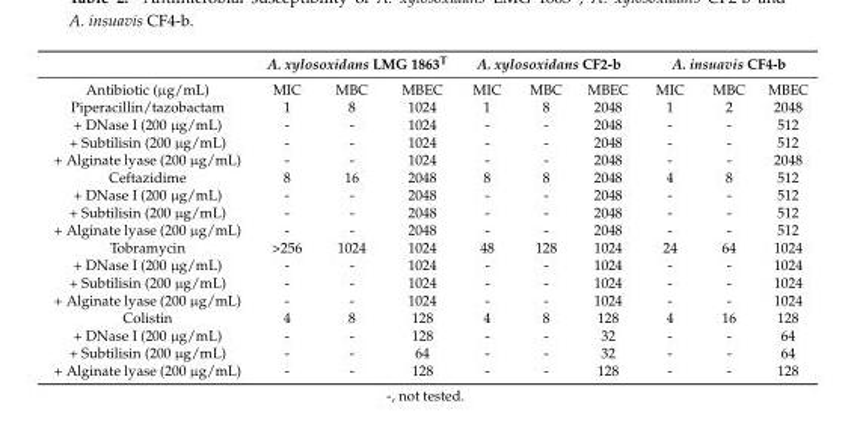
<table><thead><tr><td rowspan="2">Antibiotic (µg/mL)</td><td colspan="3">A. xylosoxidans LMG 1863<sup>T</sup></td><td colspan="3">A. xylosoxidans CF2-b</td><td colspan="3">A. insuavis CF4-b</td></tr><tr><td>MIC</td><td>MBC</td><td>MBEC</td><td>MIC</td><td>MBC</td><td>MBEC</td><td>MIC</td><td>MBC</td><td>MBEC</td></tr></thead><tbody><tr><td>Piperacillin/tazobactam</td><td>1</td><td>8</td><td>1024</td><td>1</td><td>8</td><td>2048</td><td>1</td><td>2</td><td>2048</td></tr><tr><td>+ DNase I (200 µg/mL)</td><td>-</td><td>-</td><td>1024</td><td>-</td><td>-</td><td>2048</td><td>-</td><td>-</td><td>512</td></tr><tr><td>+ Subtilisin (200 µg/mL)</td><td>-</td><td>-</td><td>1024</td><td>-</td><td>-</td><td>2048</td><td>-</td><td>-</td><td>512</td></tr><tr><td>+ Alginate lyase (200 µg/mL)</td><td>-</td><td>-</td><td>1024</td><td>-</td><td>-</td><td>2048</td><td>-</td><td>-</td><td>2048</td></tr><tr><td>Ceftazidime</td><td>8</td><td>16</td><td>2048</td><td>8</td><td>8</td><td>2048</td><td>4</td><td>8</td><td>512</td></tr><tr><td>+ DNase I (200 µg/mL)</td><td>-</td><td>-</td><td>2048</td><td>-</td><td>-</td><td>2048</td><td>-</td><td>-</td><td>512</td></tr><tr><td>+ Subtilisin (200 µg/mL)</td><td>-</td><td>-</td><td>2048</td><td>-</td><td>-</td><td>2048</td><td>-</td><td>-</td><td>512</td></tr><tr><td>+ Alginate lyase (200 µg/mL)</td><td>-</td><td>-</td><td>2048</td><td>-</td><td>-</td><td>2048</td><td>-</td><td>-</td><td>512</td></tr><tr><td>Tobramycin</td><td>&gt;256</td><td>1024</td><td>1024</td><td>48</td><td>128</td><td>1024</td><td>24</td><td>64</td><td>1024</td></tr><tr><td>+ DNase I (200 µg/mL)</td><td>-</td><td>-</td><td>1024</td><td>-</td><td>-</td><td>1024</td><td>-</td><td>-</td><td>1024</td></tr><tr><td>+ Subtilisin (200 µg/mL)</td><td>-</td><td>-</td><td>1024</td><td>-</td><td>-</td><td>1024</td><td>-</td><td>-</td><td>1024</td></tr><tr><td>+ Alginate lyase (200 µg/mL)</td><td>-</td><td>-</td><td>1024</td><td>-</td><td>-</td><td>1024</td><td>-</td><td>-</td><td>1024</td></tr><tr><td>Colistin</td><td>4</td><td>8</td><td>128</td><td>4</td><td>8</td><td>128</td><td>4</td><td>16</td><td>128</td></tr><tr><td>+ DNase I (200 µg/mL)</td><td>-</td><td>-</td><td>128</td><td>-</td><td>-</td><td>32</td><td>-</td><td>-</td><td>64</td></tr><tr><td>+ Subtilisin (200 µg/mL)</td><td>-</td><td>-</td><td>64</td><td>-</td><td>-</td><td>32</td><td>-</td><td>-</td><td>64</td></tr><tr><td>+ Alginate lyase (200 µg/mL)</td><td>-</td><td>-</td><td>128</td><td>-</td><td>-</td><td>128</td><td>-</td><td>-</td><td>128</td></tr></tbody></table>